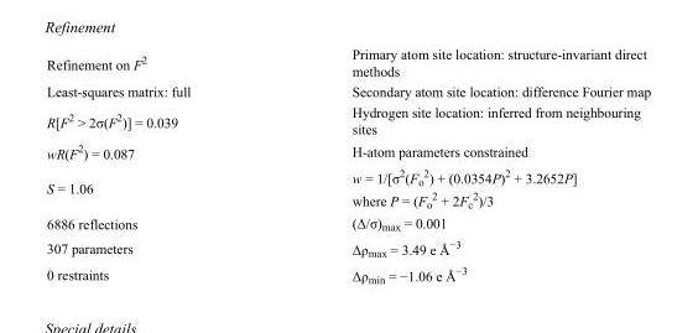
<table><tbody><tr><td>Refinement on F<sup>2</sup></td><td>Primary atom site location: structure-invariant direct methods</td></tr><tr><td>Least-squares matrix: full</td><td>Secondary atom site location: difference Fourier map</td></tr><tr><td>R[F<sup>2</sup> &gt; 2σ(F<sup>2</sup>)] = 0.039</td><td>Hydrogen site location: inferred from neighbouring sites</td></tr><tr><td>wR(F<sup>2</sup>) = 0.087</td><td>H-atom parameters constrained</td></tr><tr><td>S = 1.06</td><td>w = 1/[σ<sup>2</sup>(F<sub>o</sub> <sup>2</sup>) + (0.0354P)<sup>2</sup> + 3.2652P] where P = (F<sub>o</sub> <sup>2</sup> + 2F<sub>c</sub> <sup>2</sup>)/3</td></tr><tr><td>6886 reflections</td><td>(Δ/σ)<sub>max</sub> = 0.001</td></tr><tr><td>307 parameters</td><td>Δρ<sub>max</sub> = 3.49 e Å<sup>−3</sup></td></tr><tr><td>0 restraints</td><td>Δρ<sub>min</sub> = −1.06 e Å<sup>−3</sup></td></tr></tbody></table>